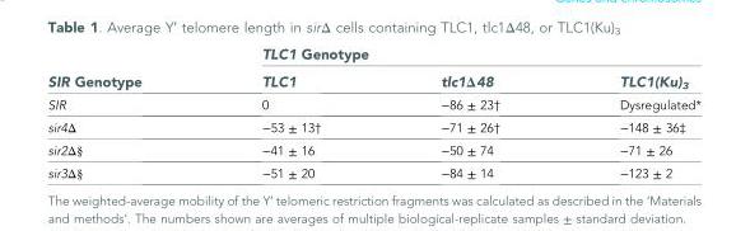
<table><thead><tr><td rowspan="2">SIR Genotype</td><td colspan="3">TLC1 Genotype</td></tr><tr><td>TLC1</td><td>tlc1Δ48</td><td>TLC1(Ku)<sub>3</sub></td></tr></thead><tbody><tr><td>SIR</td><td>0</td><td>−86 ± 23†</td><td>Dysregulated*</td></tr><tr><td>sir4Δ</td><td>−53 ± 13†</td><td>−71 ± 26†</td><td>−148 ± 36‡</td></tr><tr><td>sir2Δ§</td><td>−41 ± 16</td><td>−50 ± 74</td><td>−71 ± 26</td></tr><tr><td>sir3Δ§</td><td>−51 ± 20</td><td>−84 ± 14</td><td>−123 ± 2</td></tr></tbody></table>